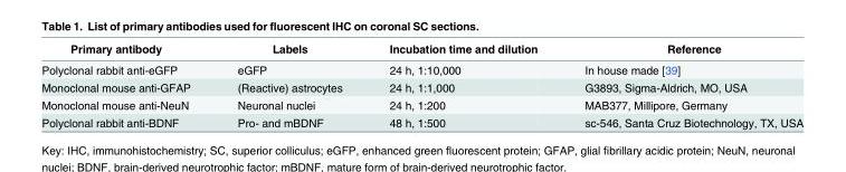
<table><thead><tr><td>Primary antibody</td><td>Labels</td><td>Incubation time and dilution</td><td>Reference</td></tr></thead><tbody><tr><td>Polyclonal rabbit anti-eGFP</td><td>eGFP</td><td>24 h, 1:10,000</td><td>In house made [39]</td></tr><tr><td>Monoclonal mouse anti-GFAP</td><td>(Reactive) astrocytes</td><td>24 h, 1:1,000</td><td>G3893, Sigma-Aldrich, MO, USA</td></tr><tr><td>Monoclonal mouse anti-NeuN</td><td>Neuronal nuclei</td><td>24 h, 1:200</td><td>MAB377, Millipore, Germany</td></tr><tr><td>Polyclonal rabbit anti-BDNF</td><td>Pro- and mBDNF</td><td>48 h, 1:500</td><td>sc-546, Santa Cruz Biotechnology, TX, USA</td></tr></tbody></table>